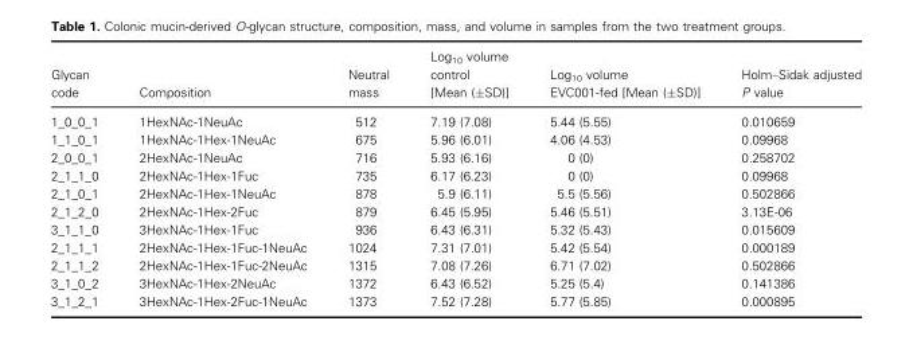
<table><thead><tr><td>Glycan code</td><td>Composition</td><td>Neutral mass</td><td>Log<sub>10</sub> volume control [Mean (±SD)]</td><td>Log<sub>10</sub> volume EVC001-fed [Mean (±SD)]</td><td>Holm–Sidak adjusted P value</td></tr></thead><tbody><tr><td>1_0_0_1</td><td>1HexNAc-1NeuAc</td><td>512</td><td>7.19 (7.08)</td><td>5.44 (5.55)</td><td>0.010659</td></tr><tr><td>1_1_0_1</td><td>1HexNAc-1Hex-1NeuAc</td><td>675</td><td>5.96 (6.01)</td><td>4.06 (4.53)</td><td>0.09968</td></tr><tr><td>2_0_0_1</td><td>2HexNAc-1NeuAc</td><td>716</td><td>5.93 (6.16)</td><td>0 (0)</td><td>0.258702</td></tr><tr><td>2_1_1_0</td><td>2HexNAc-1Hex-1Fuc</td><td>735</td><td>6.17 (6.23)</td><td>0 (0)</td><td>0.09968</td></tr><tr><td>2_1_0_1</td><td>2HexNAc-1Hex-1NeuAc</td><td>878</td><td>5.9 (6.11)</td><td>5.5 (5.56)</td><td>0.502866</td></tr><tr><td>2_1_2_0</td><td>2HexNAc-1Hex-2Fuc</td><td>879</td><td>6.45 (5.95)</td><td>5.46 (5.51)</td><td>3.13E-06</td></tr><tr><td>3_1_1_0</td><td>3HexNAc-1Hex-1Fuc</td><td>936</td><td>6.43 (6.31)</td><td>5.32 (5.43)</td><td>0.015609</td></tr><tr><td>2_1_1_1</td><td>2HexNAc-1Hex-1Fuc-1NeuAc</td><td>1024</td><td>7.31 (7.01)</td><td>5.42 (5.54)</td><td>0.000189</td></tr><tr><td>2_1_1_2</td><td>2HexNAc-1Hex-1Fuc-2NeuAc</td><td>1315</td><td>7.08 (7.26)</td><td>6.71 (7.02)</td><td>0.502866</td></tr><tr><td>3_1_0_2</td><td>3HexNAc-1Hex-2NeuAc</td><td>1372</td><td>6.43 (6.52)</td><td>5.25 (5.4)</td><td>0.141386</td></tr><tr><td>3_1_2_1</td><td>3HexNAc-1Hex-2Fuc-1NeuAc</td><td>1373</td><td>7.52 (7.28)</td><td>5.77 (5.85)</td><td>0.000895</td></tr></tbody></table>